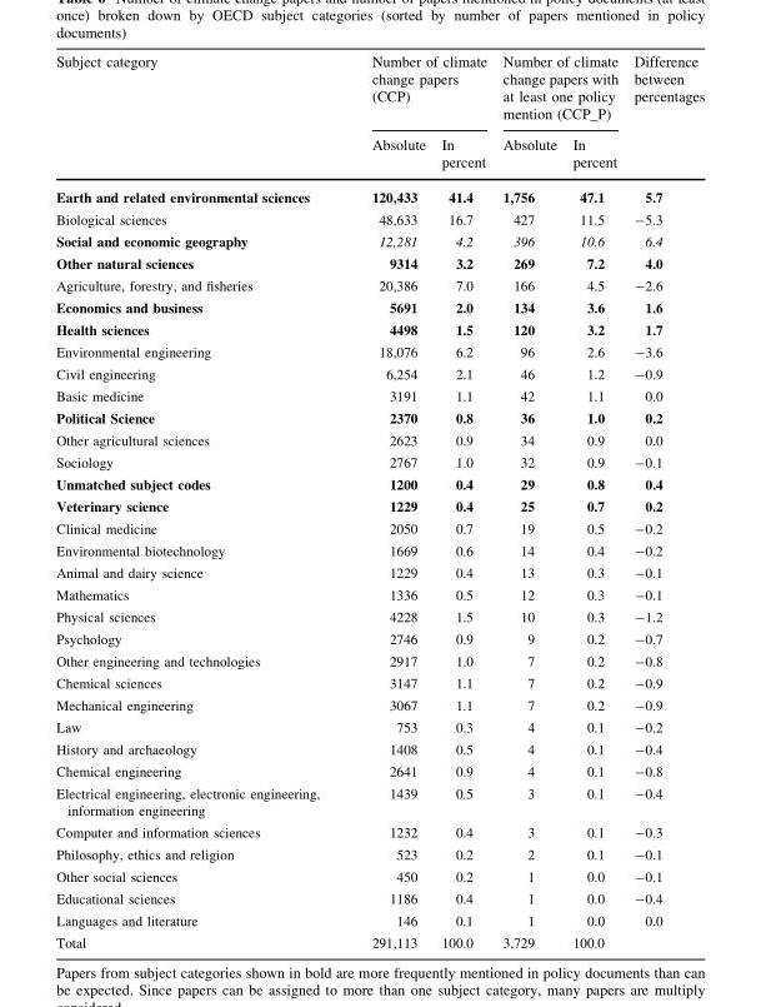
<table><thead><tr><td rowspan="2">Subject category</td><td colspan="2">Number of climate change papers (CCP)</td><td colspan="2">Number of climate change papers with at least one policy mention (CCP_P)</td><td rowspan="2">Difference between percentages</td></tr><tr><td>Absolute</td><td>In percent</td><td>Absolute</td><td>In percent</td></tr></thead><tbody><tr><td>Earth and related environmental sciences</td><td>120,433</td><td>41.4</td><td>1,756</td><td>47.1</td><td>5.7</td></tr><tr><td>Biological sciences</td><td>48,633</td><td>16.7</td><td>427</td><td>11.5</td><td>-5.3</td></tr><tr><td>Social and economic geography</td><td>12,281</td><td>4.2</td><td>396</td><td>10.6</td><td>6.4</td></tr><tr><td>Other natural sciences</td><td>9314</td><td>3.2</td><td>269</td><td>7.2</td><td>4.0</td></tr><tr><td>Agriculture, forestry, and fisheries</td><td>20,386</td><td>7.0</td><td>166</td><td>4.5</td><td>-2.6</td></tr><tr><td>Economics and business</td><td>5691</td><td>2.0</td><td>134</td><td>3.6</td><td>1.6</td></tr><tr><td>Health sciences</td><td>4498</td><td>1.5</td><td>120</td><td>3.2</td><td>1.7</td></tr><tr><td>Environmental engineering</td><td>18,076</td><td>6.2</td><td>96</td><td>2.6</td><td>-3.6</td></tr><tr><td>Civil engineering</td><td>6,254</td><td>2.1</td><td>46</td><td>1.2</td><td>-0.9</td></tr><tr><td>Basic medicine</td><td>3191</td><td>1.1</td><td>42</td><td>1.1</td><td>0.0</td></tr><tr><td>Political Science</td><td>2370</td><td>0.8</td><td>36</td><td>1.0</td><td>0.2</td></tr><tr><td>Other agricultural sciences</td><td>2623</td><td>0.9</td><td>34</td><td>0.9</td><td>0.0</td></tr><tr><td>Sociology</td><td>2767</td><td>1.0</td><td>32</td><td>0.9</td><td>-0.1</td></tr><tr><td>Unmatched subject codes</td><td>1200</td><td>0.4</td><td>29</td><td>0.8</td><td>0.4</td></tr><tr><td>Veterinary science</td><td>1229</td><td>0.4</td><td>25</td><td>0.7</td><td>0.2</td></tr><tr><td>Clinical medicine</td><td>2050</td><td>0.7</td><td>19</td><td>0.5</td><td>-0.2</td></tr><tr><td>Environmental biotechnology</td><td>1669</td><td>0.6</td><td>14</td><td>0.4</td><td>-0.2</td></tr><tr><td>Animal and dairy science</td><td>1229</td><td>0.4</td><td>13</td><td>0.3</td><td>-0.1</td></tr><tr><td>Mathematics</td><td>1336</td><td>0.5</td><td>12</td><td>0.3</td><td>-0.1</td></tr><tr><td>Physical sciences</td><td>4228</td><td>1.5</td><td>10</td><td>0.3</td><td>-1.2</td></tr><tr><td>Psychology</td><td>2746</td><td>0.9</td><td>9</td><td>0.2</td><td>-0.7</td></tr><tr><td>Other engineering and technologies</td><td>2917</td><td>1.0</td><td>7</td><td>0.2</td><td>-0.8</td></tr><tr><td>Chemical sciences</td><td>3147</td><td>1.1</td><td>7</td><td>0.2</td><td>-0.9</td></tr><tr><td>Mechanical engineering</td><td>3067</td><td>1.1</td><td>7</td><td>0.2</td><td>-0.9</td></tr><tr><td>Law</td><td>753</td><td>0.3</td><td>4</td><td>0.1</td><td>-0.2</td></tr><tr><td>History and archaeology</td><td>1408</td><td>0.5</td><td>4</td><td>0.1</td><td>-0.4</td></tr><tr><td>Chemical engineering</td><td>2641</td><td>0.9</td><td>4</td><td>0.1</td><td>-0.8</td></tr><tr><td>Electrical engineering, electronic engineering, information engineering</td><td>1439</td><td>0.5</td><td>3</td><td>0.1</td><td>-0.4</td></tr><tr><td>Computer and information sciences</td><td>1232</td><td>0.4</td><td>3</td><td>0.1</td><td>-0.3</td></tr><tr><td>Philosophy, ethics and religion</td><td>523</td><td>0.2</td><td>2</td><td>0.1</td><td>-0.1</td></tr><tr><td>Other social sciences</td><td>450</td><td>0.2</td><td>1</td><td>0.0</td><td>-0.1</td></tr><tr><td>Educational sciences</td><td>1186</td><td>0.4</td><td>1</td><td>0.0</td><td>-0.4</td></tr><tr><td>Languages and literature</td><td>146</td><td>0.1</td><td>1</td><td>0.0</td><td>0.0</td></tr><tr><td>Total</td><td>291,113</td><td>100.0</td><td>3,729</td><td>100.0</td><td></td></tr></tbody></table>